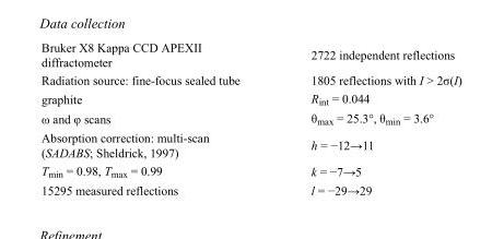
<table><tbody><tr><td>Bruker X8 Kappa CCD APEXII diffractometer</td><td>2722 independent reflections</td></tr><tr><td>Radiation source: fine-focus sealed tube</td><td>1805 reflections with I &gt; 2σ(I)</td></tr><tr><td>graphite</td><td>R<sub>int</sub> = 0.044</td></tr><tr><td>ω and φ scans</td><td>θ<sub>max</sub> = 25.3°, θ<sub>min</sub> = 3.6°</td></tr><tr><td>Absorption correction: multi-scan (SADABS; Sheldrick, 1997)</td><td>h = −12→11</td></tr><tr><td>T<sub>min</sub> = 0.98, T<sub>max</sub> = 0.99</td><td>k = −7→5</td></tr><tr><td>15295 measured reflections</td><td>l = −29→29</td></tr></tbody></table>